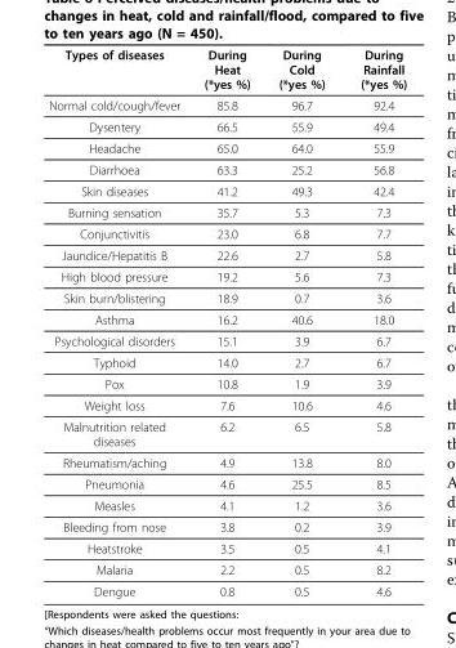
<table><thead><tr><td>Types of diseases</td><td>During Heat (*yes %)</td><td>During Cold (*yes %)</td><td>During Rainfall (*yes %)</td></tr></thead><tbody><tr><td>Normal cold/cough/fever</td><td>85.8</td><td>96.7</td><td>92.4</td></tr><tr><td>Dysentery</td><td>66.5</td><td>55.9</td><td>49.4</td></tr><tr><td>Headache</td><td>65.0</td><td>64.0</td><td>55.9</td></tr><tr><td>Diarrhoea</td><td>63.3</td><td>25.2</td><td>56.8</td></tr><tr><td>Skin diseases</td><td>41.2</td><td>49.3</td><td>42.4</td></tr><tr><td>Burning sensation</td><td>35.7</td><td>5.3</td><td>7.3</td></tr><tr><td>Conjunctivitis</td><td>23.0</td><td>6.8</td><td>7.7</td></tr><tr><td>Jaundice/Hepatitis B</td><td>22.6</td><td>2.7</td><td>5.8</td></tr><tr><td>High blood pressure</td><td>19.2</td><td>5.6</td><td>7.3</td></tr><tr><td>Skin burn/blistering</td><td>18.9</td><td>0.7</td><td>3.6</td></tr><tr><td>Asthma</td><td>16.2</td><td>40.6</td><td>18.0</td></tr><tr><td>Psychological disorders</td><td>15.1</td><td>3.9</td><td>6.7</td></tr><tr><td>Typhoid</td><td>14.0</td><td>2.7</td><td>6.7</td></tr><tr><td>Pox</td><td>10.8</td><td>1.9</td><td>3.9</td></tr><tr><td>Weight loss</td><td>7.6</td><td>10.6</td><td>4.6</td></tr><tr><td>Malnutrition related diseases</td><td>6.2</td><td>6.5</td><td>5.8</td></tr><tr><td>Rheumatism/aching</td><td>4.9</td><td>13.8</td><td>8.0</td></tr><tr><td>Pneumonia</td><td>4.6</td><td>25.5</td><td>8.5</td></tr><tr><td>Measles</td><td>4.1</td><td>1.2</td><td>3.6</td></tr><tr><td>Bleeding from nose</td><td>3.8</td><td>0.2</td><td>3.9</td></tr><tr><td>Heatstroke</td><td>3.5</td><td>0.5</td><td>4.1</td></tr><tr><td>Malaria</td><td>2.2</td><td>0.5</td><td>8.2</td></tr><tr><td>Dengue</td><td>0.8</td><td>0.5</td><td>4.6</td></tr></tbody></table>